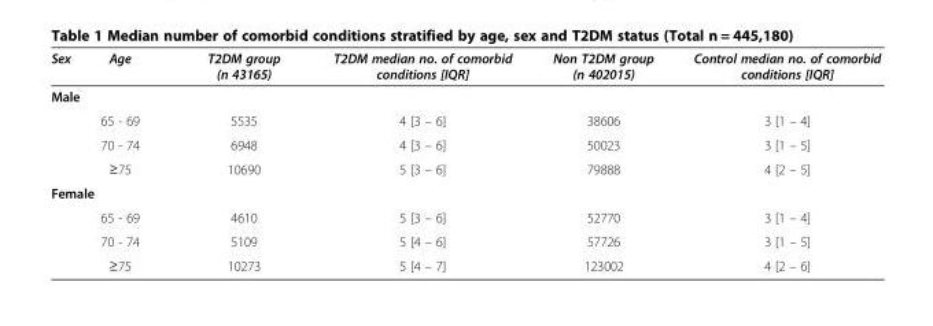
<table><thead><tr><td>Sex</td><td>Age</td><td>T2DM group (n 43165)</td><td>T2DM median no. of comorbid conditions [IQR]</td><td>Non T2DM group (n 402015)</td><td>Control median no. of comorbid conditions [IQR]</td></tr></thead><tbody><tr><td colspan="6">Male</td></tr><tr><td rowspan="3"></td><td>65 - 69</td><td>5535</td><td>4 [3 – 6]</td><td>38606</td><td>3 [1 – 4]</td></tr><tr><td>70 - 74</td><td>6948</td><td>4 [3 – 6]</td><td>50023</td><td>3 [1 – 5]</td></tr><tr><td>≥75</td><td>10690</td><td>5 [3 – 6]</td><td>79888</td><td>4 [2 – 5]</td></tr><tr><td colspan="6">Female</td></tr><tr><td></td><td>65 - 69</td><td>4610</td><td>5 [3 – 6]</td><td>52770</td><td>3 [1 – 4]</td></tr><tr><td></td><td>70 - 74</td><td>5109</td><td>5 [4 – 6]</td><td>57726</td><td>3 [1 – 5]</td></tr><tr><td></td><td>≥75</td><td>10273</td><td>5 [4 – 7]</td><td>123002</td><td>4 [2 – 6]</td></tr></tbody></table>